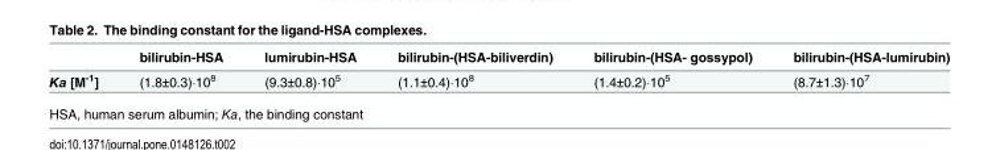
<table><thead><tr><td></td><td>bilirubin-HSA</td><td>lumirubin-HSA</td><td>bilirubin-(HSA-biliverdin)</td><td>bilirubin-(HSA- gossypol)</td><td>bilirubin-(HSA-lumirubin)</td></tr></thead><tbody><tr><td>Ka [M<sup>-1</sup>]</td><td>(1.8±0.3)·10<sup>8</sup></td><td>(9.3±0.8)·10<sup>5</sup></td><td>(1.1±0.4)·10<sup>8</sup></td><td>(1.4±0.2)·10<sup>5</sup></td><td>(8.7±1.3)·10<sup>7</sup></td></tr></tbody></table>